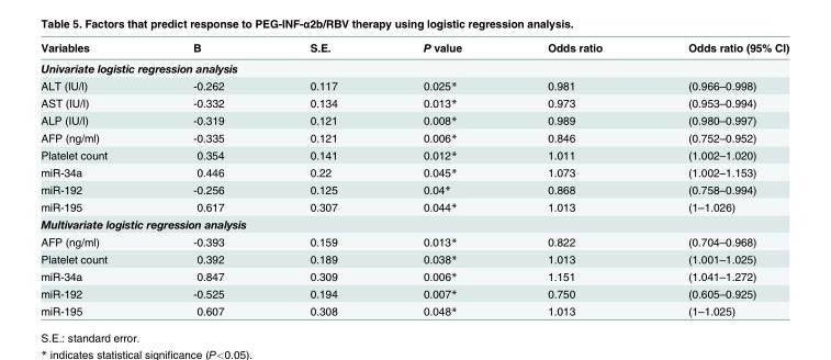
<table><thead><tr><td>Variables</td><td>B</td><td>S.E.</td><td>P value</td><td>Odds ratio</td><td>Odds ratio (95% CI)</td></tr></thead><tbody><tr><td colspan="6">Univariate logistic regression analysis</td></tr><tr><td>ALT (IU/l)</td><td>-0.262</td><td>0.117</td><td>0.025*</td><td>0.981</td><td>(0.966–0.998)</td></tr><tr><td>AST (IU/l)</td><td>-0.332</td><td>0.134</td><td>0.013*</td><td>0.973</td><td>(0.953–0.994)</td></tr><tr><td>ALP (IU/l)</td><td>-0.319</td><td>0.121</td><td>0.008*</td><td>0.989</td><td>(0.980–0.997)</td></tr><tr><td>AFP (ng/ml)</td><td>-0.335</td><td>0.121</td><td>0.006*</td><td>0.846</td><td>(0.752–0.952)</td></tr><tr><td>Platelet count</td><td>0.354</td><td>0.141</td><td>0.012*</td><td>1.011</td><td>(1.002–1.020)</td></tr><tr><td>miR-34a</td><td>0.446</td><td>0.22</td><td>0.045*</td><td>1.073</td><td>(1.002–1.153)</td></tr><tr><td>miR-192</td><td>-0.256</td><td>0.125</td><td>0.04*</td><td>0.868</td><td>(0.758–0.994)</td></tr><tr><td>miR-195</td><td>0.617</td><td>0.307</td><td>0.044*</td><td>1.013</td><td>(1–1.026)</td></tr><tr><td colspan="6">Multivariate logistic regression analysis</td></tr><tr><td>AFP (ng/ml)</td><td>-0.393</td><td>0.159</td><td>0.013*</td><td>0.822</td><td>(0.704–0.968)</td></tr><tr><td>Platelet count</td><td>0.392</td><td>0.189</td><td>0.038*</td><td>1.013</td><td>(1.001–1.025)</td></tr><tr><td>miR-34a</td><td>0.847</td><td>0.309</td><td>0.006*</td><td>1.151</td><td>(1.041–1.272)</td></tr><tr><td>miR-192</td><td>-0.525</td><td>0.194</td><td>0.007*</td><td>0.750</td><td>(0.605–0.925)</td></tr><tr><td>miR-195</td><td>0.607</td><td>0.308</td><td>0.048*</td><td>1.013</td><td>(1–1.025)</td></tr></tbody></table>